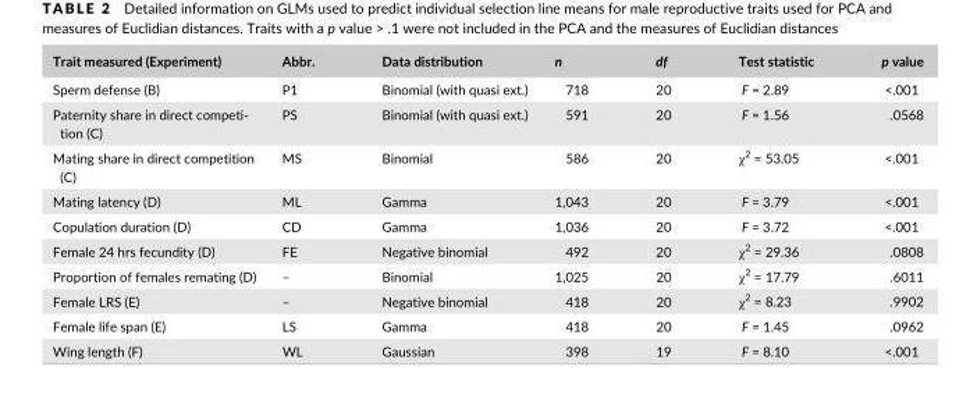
<table><thead><tr><td>Trait measured (Experiment)</td><td>Abbr.</td><td>Data distribution</td><td>n</td><td>df</td><td>Test statistic</td><td>p value</td></tr></thead><tbody><tr><td>Sperm defense (B)</td><td>P1</td><td>Binomial (with quasi ext.)</td><td>718</td><td>20</td><td>F = 2.89</td><td>&lt;.001</td></tr><tr><td>Paternity share in direct competi- tion (C)</td><td>PS</td><td>Binomial (with quasi ext.)</td><td>591</td><td>20</td><td>F = 1.56</td><td>.0568</td></tr><tr><td>Mating share in direct competition (C)</td><td>MS</td><td>Binomial</td><td>586</td><td>20</td><td>χ<sup>2</sup> = 53.05</td><td>&lt;.001</td></tr><tr><td>Mating latency (D)</td><td>ML</td><td>Gamma</td><td>1,043</td><td>20</td><td>F = 3.79</td><td>&lt;.001</td></tr><tr><td>Copulation duration (D)</td><td>CD</td><td>Gamma</td><td>1,036</td><td>20</td><td>F = 3.72</td><td>&lt;.001</td></tr><tr><td>Female 24 hrs fecundity (D)</td><td>FE</td><td>Negative binomial</td><td>492</td><td>20</td><td>χ<sup>2</sup> = 29.36</td><td>.0808</td></tr><tr><td>Proportion of females remating (D)</td><td>–</td><td>Binomial</td><td>1,025</td><td>20</td><td>χ<sup>2</sup> = 17.79</td><td>.6011</td></tr><tr><td>Female LRS (E)</td><td>–</td><td>Negative binomial</td><td>418</td><td>20</td><td>χ<sup>2</sup> = 8.23</td><td>.9902</td></tr><tr><td>Female life span (E)</td><td>LS</td><td>Gamma</td><td>418</td><td>20</td><td>F = 1.45</td><td>.0962</td></tr><tr><td>Wing length (F)</td><td>WL</td><td>Gaussian</td><td>398</td><td>19</td><td>F = 8.10</td><td>&lt;.001</td></tr></tbody></table>